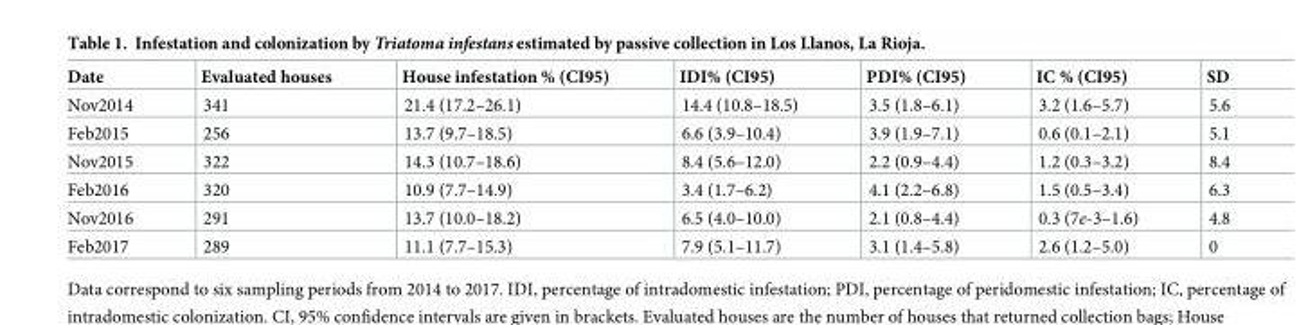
<table><thead><tr><td>Date</td><td>Evaluated houses</td><td>House infestation % (CI95)</td><td>IDI% (CI95)</td><td>PDI% (CI95)</td><td>IC % (CI95)</td><td>SD</td></tr></thead><tbody><tr><td>Nov2014</td><td>341</td><td>21.4 (17.2–26.1)</td><td>14.4 (10.8–18.5)</td><td>3.5 (1.8–6.1)</td><td>3.2 (1.6–5.7)</td><td>5.6</td></tr><tr><td>Feb2015</td><td>256</td><td>13.7 (9.7–18.5)</td><td>6.6 (3.9–10.4)</td><td>3.9 (1.9–7.1)</td><td>0.6 (0.1–2.1)</td><td>5.1</td></tr><tr><td>Nov2015</td><td>322</td><td>14.3 (10.7–18.6)</td><td>8.4 (5.6–12.0)</td><td>2.2 (0.9–4.4)</td><td>1.2 (0.3–3.2)</td><td>8.4</td></tr><tr><td>Feb2016</td><td>320</td><td>10.9 (7.7–14.9)</td><td>3.4 (1.7–6.2)</td><td>4.1 (2.2–6.8)</td><td>1.5 (0.5–3.4)</td><td>6.3</td></tr><tr><td>Nov2016</td><td>291</td><td>13.7 (10.0–18.2)</td><td>6.5 (4.0–10.0)</td><td>2.1 (0.8–4.4)</td><td>0.3 (7e-3–1.6)</td><td>4.8</td></tr><tr><td>Feb2017</td><td>289</td><td>11.1 (7.7–15.3)</td><td>7.9 (5.1–11.7)</td><td>3.1 (1.4–5.8)</td><td>2.6 (1.2–5.0)</td><td>0</td></tr></tbody></table>